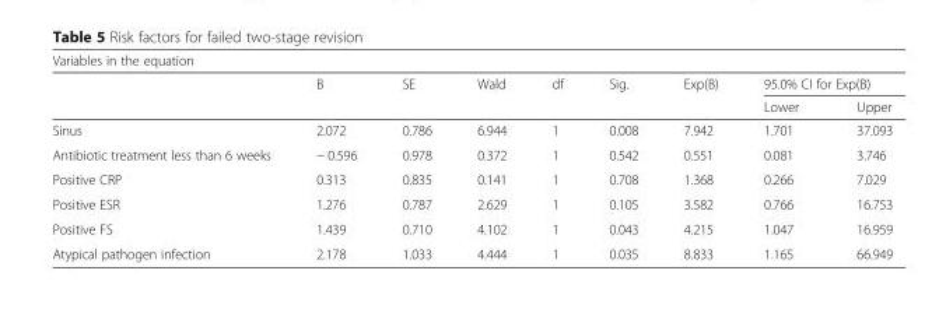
<table><thead><tr><td colspan="9">Variables in the equation</td></tr><tr><td rowspan="2"></td><td rowspan="2">B</td><td rowspan="2">SE</td><td rowspan="2">Wald</td><td rowspan="2">df</td><td rowspan="2">Sig.</td><td rowspan="2">Exp(B)</td><td colspan="2">95.0% CI for Exp(B)</td></tr><tr><td>Lower</td><td>Upper</td></tr></thead><tbody><tr><td>Sinus</td><td>2.072</td><td>0.786</td><td>6.944</td><td>1</td><td>0.008</td><td>7.942</td><td>1.701</td><td>37.093</td></tr><tr><td>Antibiotic treatment less than 6 weeks</td><td>− 0.596</td><td>0.978</td><td>0.372</td><td>1</td><td>0.542</td><td>0.551</td><td>0.081</td><td>3.746</td></tr><tr><td>Positive CRP</td><td>0.313</td><td>0.835</td><td>0.141</td><td>1</td><td>0.708</td><td>1.368</td><td>0.266</td><td>7.029</td></tr><tr><td>Positive ESR</td><td>1.276</td><td>0.787</td><td>2.629</td><td>1</td><td>0.105</td><td>3.582</td><td>0.766</td><td>16.753</td></tr><tr><td>Positive FS</td><td>1.439</td><td>0.710</td><td>4.102</td><td>1</td><td>0.043</td><td>4.215</td><td>1.047</td><td>16.959</td></tr><tr><td>Atypical pathogen infection</td><td>2.178</td><td>1.033</td><td>4.444</td><td>1</td><td>0.035</td><td>8.833</td><td>1.165</td><td>66.949</td></tr></tbody></table>